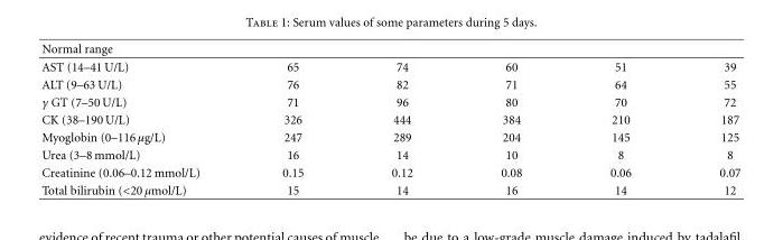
<table><thead><tr><td>Normal range</td><td></td><td></td><td></td><td></td><td></td></tr></thead><tbody><tr><td>AST (14–41 U/L)</td><td>65</td><td>74</td><td>60</td><td>51</td><td>39</td></tr><tr><td>ALT (9–63 U/L)</td><td>76</td><td>82</td><td>71</td><td>64</td><td>55</td></tr><tr><td>γ GT (7–50 U/L)</td><td>71</td><td>96</td><td>80</td><td>70</td><td>72</td></tr><tr><td>CK (38–190 U/L)</td><td>326</td><td>444</td><td>384</td><td>210</td><td>187</td></tr><tr><td>Myoglobin (0–116 μg/L)</td><td>247</td><td>289</td><td>204</td><td>145</td><td>125</td></tr><tr><td>Urea (3–8 mmol/L)</td><td>16</td><td>14</td><td>10</td><td>8</td><td>8</td></tr><tr><td>Creatinine (0.06–0.12 mmol/L)</td><td>0.15</td><td>0.12</td><td>0.08</td><td>0.06</td><td>0.07</td></tr><tr><td>Total bilirubin (&lt;20 μmol/L)</td><td>15</td><td>14</td><td>16</td><td>14</td><td>12</td></tr></tbody></table>